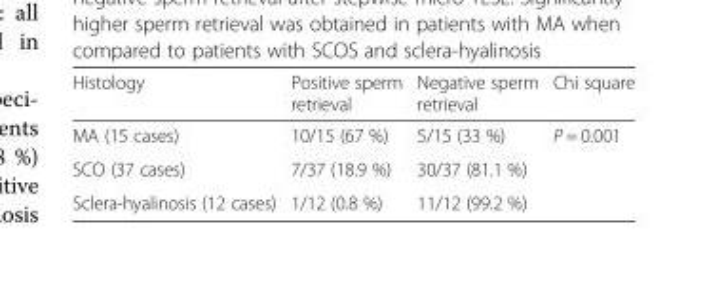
<table><thead><tr><td>Histology</td><td>Positive sperm retrieval</td><td>Negative sperm retrieval</td><td>Chi square</td></tr></thead><tbody><tr><td>MA (15 cases)</td><td>10/15 (67 %)</td><td>5/15 (33 %)</td><td rowspan="3">P = 0.001</td></tr><tr><td>SCO (37 cases)</td><td>7/37 (18.9 %)</td><td>30/37 (81.1 %)</td></tr><tr><td>Sclera-hyalinosis (12 cases)</td><td>1/12 (0.8 %)</td><td>11/12 (99.2 %)</td></tr></tbody></table>